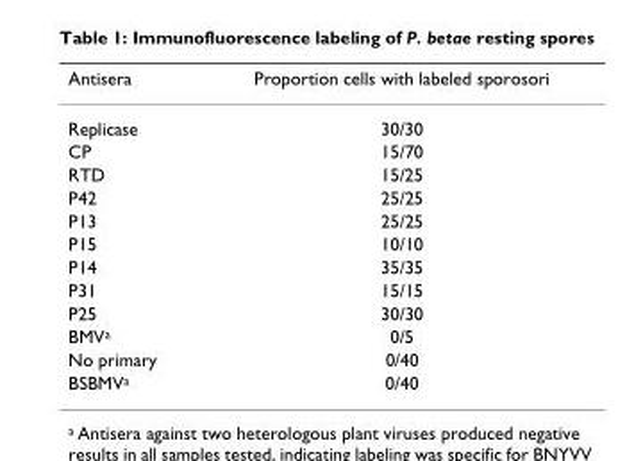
<table><thead><tr><td>Antisera</td><td>Proportion cells with labeled sporosori</td></tr></thead><tbody><tr><td>Replicase</td><td>30/30</td></tr><tr><td>CP</td><td>15/70</td></tr><tr><td>RTD</td><td>15/25</td></tr><tr><td>P42</td><td>25/25</td></tr><tr><td>P13</td><td>25/25</td></tr><tr><td>P15</td><td>10/10</td></tr><tr><td>P14</td><td>35/35</td></tr><tr><td>P31</td><td>15/15</td></tr><tr><td>P25</td><td>30/30</td></tr><tr><td>BMV<sup>a</sup></td><td>0/5</td></tr><tr><td>No primary</td><td>0/40</td></tr><tr><td>BSBMV<sup>a</sup></td><td>0/40</td></tr></tbody></table>